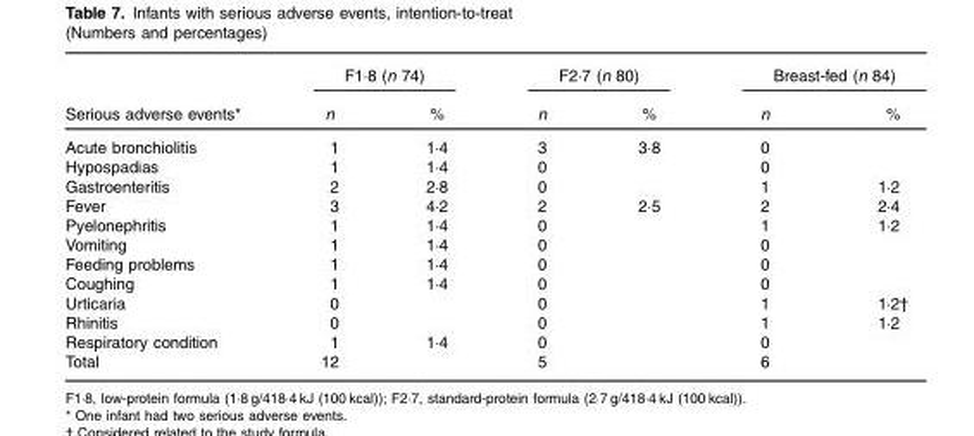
<table><thead><tr><td rowspan="2">Serious adverse events*</td><td colspan="2">F1·8 (n 74)</td><td colspan="2">F2·7 (n 80)</td><td colspan="2">Breast-fed (n 84)</td></tr><tr><td>n</td><td>%</td><td>n</td><td>%</td><td>n</td><td>%</td></tr></thead><tbody><tr><td>Acute bronchiolitis</td><td>1</td><td>1·4</td><td>3</td><td>3·8</td><td>0</td><td></td></tr><tr><td>Hypospadias</td><td>1</td><td>1·4</td><td>0</td><td></td><td>0</td><td></td></tr><tr><td>Gastroenteritis</td><td>2</td><td>2·8</td><td>0</td><td></td><td>1</td><td>1·2</td></tr><tr><td>Fever</td><td>3</td><td>4·2</td><td>2</td><td>2·5</td><td>2</td><td>2·4</td></tr><tr><td>Pyelonephritis</td><td>1</td><td>1·4</td><td>0</td><td></td><td>1</td><td>1·2</td></tr><tr><td>Vomiting</td><td>1</td><td>1·4</td><td>0</td><td></td><td>0</td><td></td></tr><tr><td>Feeding problems</td><td>1</td><td>1·4</td><td>0</td><td></td><td>0</td><td></td></tr><tr><td>Coughing</td><td>1</td><td>1·4</td><td>0</td><td></td><td>0</td><td></td></tr><tr><td>Urticaria</td><td>0</td><td></td><td>0</td><td></td><td>1</td><td>1·2†</td></tr><tr><td>Rhinitis</td><td>0</td><td></td><td>0</td><td></td><td>1</td><td>1·2</td></tr><tr><td>Respiratory condition</td><td>1</td><td>1·4</td><td>0</td><td></td><td>0</td><td></td></tr><tr><td>Total</td><td>12</td><td></td><td>5</td><td></td><td>6</td><td></td></tr></tbody></table>